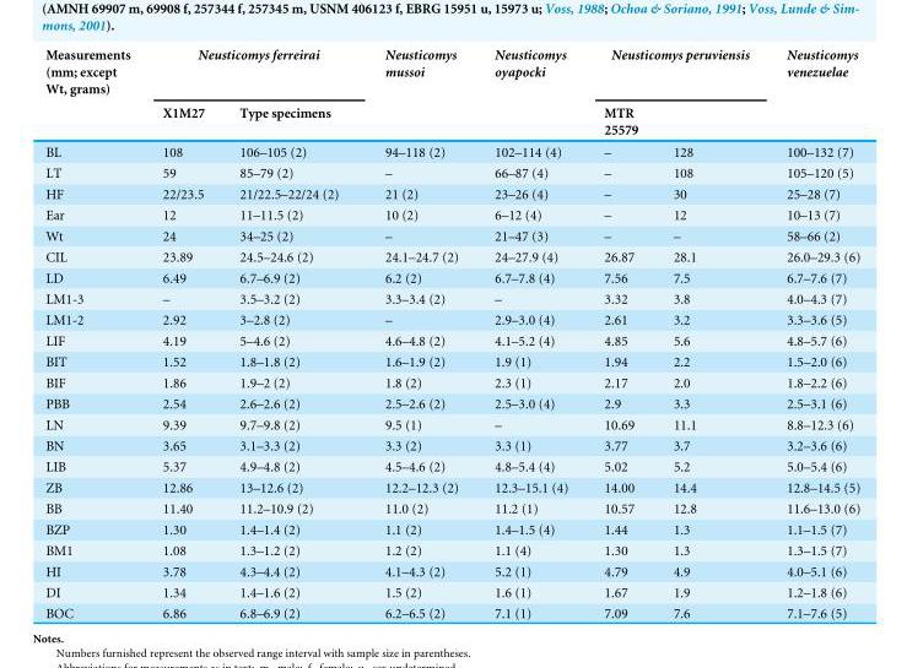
<table><thead><tr><td rowspan="2">Measurements (mm; except Wt, grams)</td><td colspan="2">Neusticomys ferreirai</td><td rowspan="2">Neusticomys mussoi</td><td rowspan="2">Neusticomys oyapocki</td><td colspan="2">Neusticomys peruviensis</td><td rowspan="2">Neusticomys venezuelae</td></tr><tr><td>X1M27</td><td>Type specimens</td><td>MTR 25579</td><td></td></tr></thead><tbody><tr><td>BL</td><td>108</td><td>106–105 (2)</td><td>94–118 (2)</td><td>102–114 (4)</td><td>–</td><td>128</td><td>100–132 (7)</td></tr><tr><td>LT</td><td>59</td><td>85–79 (2)</td><td>–</td><td>66–87 (4)</td><td>–</td><td>108</td><td>105–120 (5)</td></tr><tr><td>HF</td><td>22/23.5</td><td>21/22.5–22/24 (2)</td><td>21 (2)</td><td>23–26 (4)</td><td>–</td><td>30</td><td>25–28 (7)</td></tr><tr><td>Ear</td><td>12</td><td>11–11.5 (2)</td><td>10 (2)</td><td>6–12 (4)</td><td>–</td><td>12</td><td>10–13 (7)</td></tr><tr><td>Wt</td><td>24</td><td>34–25 (2)</td><td>–</td><td>21–47 (3)</td><td>–</td><td>–</td><td>58–66 (2)</td></tr><tr><td>CIL</td><td>23.89</td><td>24.5–24.6 (2)</td><td>24.1–24.7 (2)</td><td>24–27.9 (4)</td><td>26.87</td><td>28.1</td><td>26.0–29.3 (6)</td></tr><tr><td>LD</td><td>6.49</td><td>6.7–6.9 (2)</td><td>6.2 (2)</td><td>6.7–7.8 (4)</td><td>7.56</td><td>7.5</td><td>6.7–7.6 (7)</td></tr><tr><td>LM1-3</td><td>–</td><td>3.5–3.2 (2)</td><td>3.3–3.4 (2)</td><td>–</td><td>3.32</td><td>3.8</td><td>4.0–4.3 (7)</td></tr><tr><td>LM1-2</td><td>2.92</td><td>3–2.8 (2)</td><td>–</td><td>2.9–3.0 (4)</td><td>2.61</td><td>3.2</td><td>3.3–3.6 (5)</td></tr><tr><td>LIF</td><td>4.19</td><td>5–4.6 (2)</td><td>4.6–4.8 (2)</td><td>4.1–5.2 (4)</td><td>4.85</td><td>5.6</td><td>4.8–5.7 (6)</td></tr><tr><td>BIT</td><td>1.52</td><td>1.8–1.8 (2)</td><td>1.6–1.9 (2)</td><td>1.9 (1)</td><td>1.94</td><td>2.2</td><td>1.5–2.0 (6)</td></tr><tr><td>BIF</td><td>1.86</td><td>1.9–2 (2)</td><td>1.8 (2)</td><td>2.3 (1)</td><td>2.17</td><td>2.0</td><td>1.8–2.2 (6)</td></tr><tr><td>PBB</td><td>2.54</td><td>2.6–2.6 (2)</td><td>2.5–2.6 (2)</td><td>2.5–3.0 (4)</td><td>2.9</td><td>3.3</td><td>2.5–3.1 (6)</td></tr><tr><td>LN</td><td>9.39</td><td>9.7–9.8 (2)</td><td>9.5 (1)</td><td>–</td><td>10.69</td><td>11.1</td><td>8.8–12.3 (6)</td></tr><tr><td>BN</td><td>3.65</td><td>3.1–3.3 (2)</td><td>3.3 (2)</td><td>3.3 (1)</td><td>3.77</td><td>3.7</td><td>3.2–3.6 (6)</td></tr><tr><td>LIB</td><td>5.37</td><td>4.9–4.8 (2)</td><td>4.5–4.6 (2)</td><td>4.8–5.4 (4)</td><td>5.02</td><td>5.2</td><td>5.0–5.4 (6)</td></tr><tr><td>ZB</td><td>12.86</td><td>13–12.6 (2)</td><td>12.2–12.3 (2)</td><td>12.3–15.1 (4)</td><td>14.00</td><td>14.4</td><td>12.8–14.5 (5)</td></tr><tr><td>BB</td><td>11.40</td><td>11.2–10.9 (2)</td><td>11.0 (2)</td><td>11.2 (1)</td><td>10.57</td><td>12.8</td><td>11.6–13.0 (6)</td></tr><tr><td>BZP</td><td>1.30</td><td>1.4–1.4 (2)</td><td>1.1 (2)</td><td>1.4–1.5 (4)</td><td>1.44</td><td>1.3</td><td>1.1–1.5 (7)</td></tr><tr><td>BM1</td><td>1.08</td><td>1.3–1.2 (2)</td><td>1.2 (2)</td><td>1.1 (4)</td><td>1.30</td><td>1.3</td><td>1.3–1.5 (7)</td></tr><tr><td>HI</td><td>3.78</td><td>4.3–4.4 (2)</td><td>4.1–4.3 (2)</td><td>5.2 (1)</td><td>4.79</td><td>4.9</td><td>4.0–5.1 (6)</td></tr><tr><td>DI</td><td>1.34</td><td>1.4–1.6 (2)</td><td>1.5 (2)</td><td>1.6 (1)</td><td>1.67</td><td>1.9</td><td>1.2–1.8 (6)</td></tr><tr><td>BOC</td><td>6.86</td><td>6.8–6.9 (2)</td><td>6.2–6.5 (2)</td><td>7.1 (1)</td><td>7.09</td><td>7.6</td><td>7.1–7.6 (5)</td></tr></tbody></table>